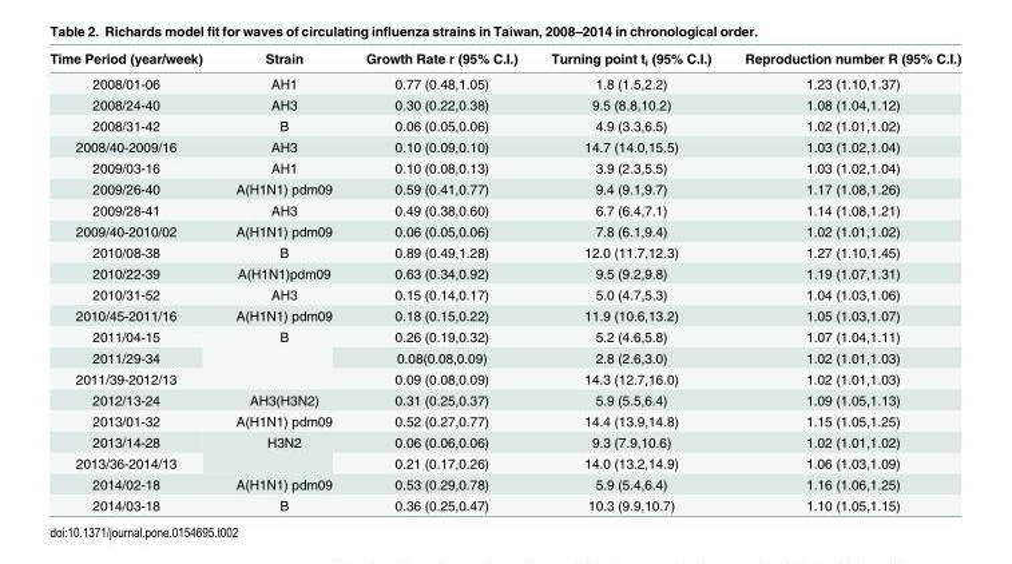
<table><thead><tr><td>Time Period (year/week)</td><td>Strain</td><td>Growth Rate r (95% C.I.)</td><td>Turning point t<sub>i</sub> (95% C.I.)</td><td>Reproduction number R (95% C.I.)</td></tr></thead><tbody><tr><td>2008/01-06</td><td>AH1</td><td>0.77 (0.48,1.05)</td><td>1.8 (1.5,2.2)</td><td>1.23 (1.10,1.37)</td></tr><tr><td>2008/24-40</td><td>AH3</td><td>0.30 (0.22,0.38)</td><td>9.5 (8.8,10.2)</td><td>1.08 (1.04,1.12)</td></tr><tr><td>2008/31-42</td><td>B</td><td>0.06 (0.05,0.06)</td><td>4.9 (3.3,6.5)</td><td>1.02 (1.01,1.02)</td></tr><tr><td>2008/40-2009/16</td><td>AH3</td><td>0.10 (0.09,0.10)</td><td>14.7 (14.0,15.5)</td><td>1.03 (1.02,1.04)</td></tr><tr><td>2009/03-16</td><td>AH1</td><td>0.10 (0.08,0.13)</td><td>3.9 (2.3,5.5)</td><td>1.03 (1.02,1.04)</td></tr><tr><td>2009/26-40</td><td>A(H1N1) pdm09</td><td>0.59 (0.41,0.77)</td><td>9.4 (9.1,9.7)</td><td>1.17 (1.08,1.26)</td></tr><tr><td>2009/28-41</td><td>AH3</td><td>0.49 (0.38,0.60)</td><td>6.7 (6.4,7.1)</td><td>1.14 (1.08,1.21)</td></tr><tr><td>2009/40-2010/02</td><td>A(H1N1) pdm09</td><td>0.06 (0.05,0.06)</td><td>7.8 (6.1,9.4)</td><td>1.02 (1.01,1.02)</td></tr><tr><td>2010/08-38</td><td>B</td><td>0.89 (0.49,1.28)</td><td>12.0 (11.7,12.3)</td><td>1.27 (1.10,1.45)</td></tr><tr><td>2010/22-39</td><td>A(H1N1)pdm09</td><td>0.63 (0.34,0.92)</td><td>9.5 (9.2,9.8)</td><td>1.19 (1.07,1.31)</td></tr><tr><td>2010/31-52</td><td>AH3</td><td>0.15 (0.14,0.17)</td><td>5.0 (4.7,5.3)</td><td>1.04 (1.03,1.06)</td></tr><tr><td>2010/45-2011/16</td><td>A(H1N1) pdm09</td><td>0.18 (0.15,0.22)</td><td>11.9 (10.6,13.2)</td><td>1.05 (1.03,1.07)</td></tr><tr><td>2011/04-15</td><td rowspan="3">B</td><td>0.26 (0.19,0.32)</td><td>5.2 (4.6,5.8)</td><td>1.07 (1.04,1.11)</td></tr><tr><td>2011/29-34</td><td>0.08(0.08,0.09)</td><td>2.8 (2.6,3.0)</td><td>1.02 (1.01,1.03)</td></tr><tr><td>2011/39-2012/13</td><td>0.09 (0.08,0.09)</td><td>14.3 (12.7,16.0)</td><td>1.02 (1.01,1.03)</td></tr><tr><td>2012/13-24</td><td>AH3(H3N2)</td><td>0.31 (0.25,0.37)</td><td>5.9 (5.5,6.4)</td><td>1.09 (1.05,1.13)</td></tr><tr><td>2013/01-32</td><td>A(H1N1) pdm09</td><td>0.52 (0.27,0.77)</td><td>14.4 (13.9,14.8)</td><td>1.15 (1.05,1.25)</td></tr><tr><td>2013/14-28</td><td rowspan="2">H3N2</td><td>0.06 (0.06,0.06)</td><td>9.3 (7.9,10.6)</td><td>1.02 (1.01,1.02)</td></tr><tr><td>2013/36-2014/13</td><td>0.21 (0.17,0.26)</td><td>14.0 (13.2,14.9)</td><td>1.06 (1.03,1.09)</td></tr><tr><td>2014/02-18</td><td>A(H1N1) pdm09</td><td>0.53 (0.29,0.78)</td><td>5.9 (5.4,6.4)</td><td>1.16 (1.06,1.25)</td></tr><tr><td>2014/03-18</td><td>B</td><td>0.36 (0.25,0.47)</td><td>10.3 (9.9,10.7)</td><td>1.10 (1.05,1.15)</td></tr></tbody></table>